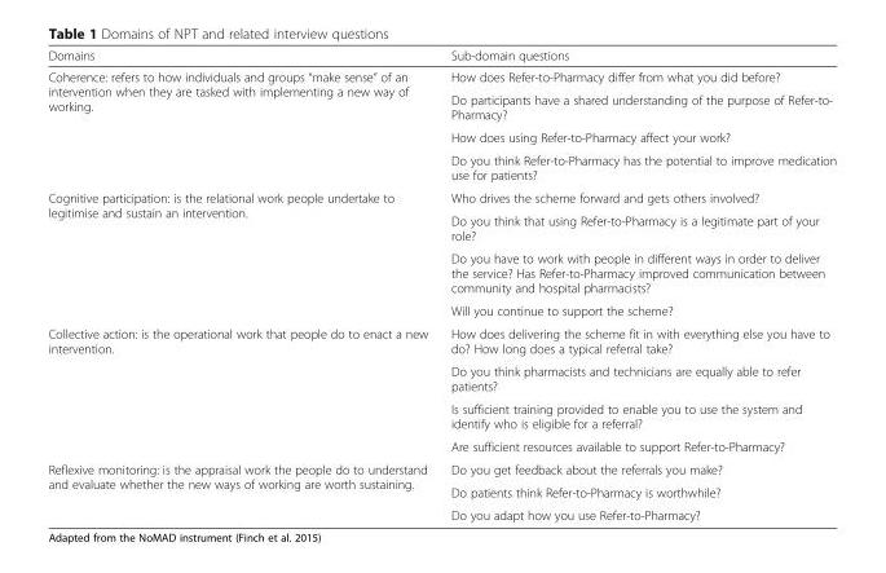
<table><thead><tr><td>Domains</td><td>Sub-domain questions</td></tr></thead><tbody><tr><td rowspan="4">Coherence: refers to how individuals and groups “make sense” of an intervention when they are tasked with implementing a new way of working.</td><td>How does Refer-to-Pharmacy differ from what you did before?</td></tr><tr><td>Do participants have a shared understanding of the purpose of Refer-to- Pharmacy?</td></tr><tr><td>How does using Refer-to-Pharmacy affect your work?</td></tr><tr><td>Do you think Refer-to-Pharmacy has the potential to improve medication use for patients?</td></tr><tr><td rowspan="4">Cognitive participation: is the relational work people undertake to legitimise and sustain an intervention.</td><td>Who drives the scheme forward and gets others involved?</td></tr><tr><td>Do you think that using Refer-to-Pharmacy is a legitimate part of your role?</td></tr><tr><td>Do you have to work with people in different ways in order to deliver the service? Has Refer-to-Pharmacy improved communication between community and hospital pharmacists?</td></tr><tr><td>Will you continue to support the scheme?</td></tr><tr><td rowspan="4">Collective action: is the operational work that people do to enact a new intervention.</td><td>How does delivering the scheme fit in with everything else you have to do? How long does a typical referral take?</td></tr><tr><td>Do you think pharmacists and technicians are equally able to refer patients?</td></tr><tr><td>Is sufficient training provided to enable you to use the system and identify who is eligible for a referral?</td></tr><tr><td>Are sufficient resources available to support Refer-to-Pharmacy?</td></tr><tr><td rowspan="3">Reflexive monitoring: is the appraisal work the people do to understand and evaluate whether the new ways of working are worth sustaining.</td><td>Do you get feedback about the referrals you make?</td></tr><tr><td>Do patients think Refer-to-Pharmacy is worthwhile?</td></tr><tr><td>Do you adapt how you use Refer-to-Pharmacy?</td></tr></tbody></table>